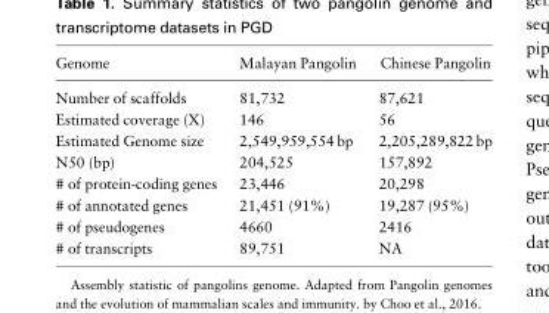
<table><thead><tr><td>Genome</td><td>Malayan Pangolin</td><td>Chinese Pangolin</td></tr></thead><tbody><tr><td>Number of scaffolds</td><td>81,732</td><td>87,621</td></tr><tr><td>Estimated coverage (X)</td><td>146</td><td>56</td></tr><tr><td>Estimated Genome size</td><td>2,549,959,554 bp</td><td>2,205,289,822 bp</td></tr><tr><td>N50 (bp)</td><td>204,525</td><td>157,892</td></tr><tr><td># of protein-coding genes</td><td>23,446</td><td>20,298</td></tr><tr><td># of annotated genes</td><td>21,451 (91%)</td><td>19,287 (95%)</td></tr><tr><td># of pseudogenes</td><td>4660</td><td>2416</td></tr><tr><td># of transcripts</td><td>89,751</td><td>NA</td></tr></tbody></table>